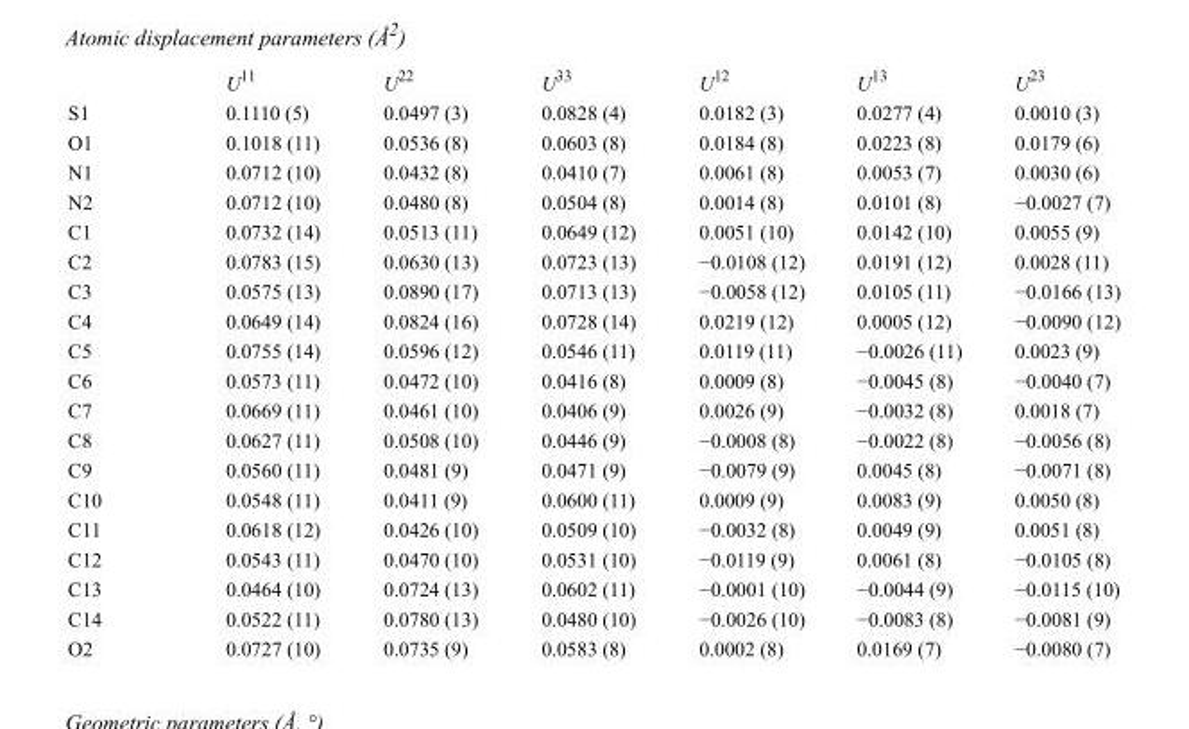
<table><thead><tr><td></td><td>U<sup>11</sup></td><td>U<sup>22</sup></td><td>U<sup>33</sup></td><td>U<sup>12</sup></td><td>U<sup>13</sup></td><td>U<sup>23</sup></td></tr></thead><tbody><tr><td>S1</td><td>0.1110 (5)</td><td>0.0497 (3)</td><td>0.0828 (4)</td><td>0.0182 (3)</td><td>0.0277 (4)</td><td>0.0010 (3)</td></tr><tr><td>O1</td><td>0.1018 (11)</td><td>0.0536 (8)</td><td>0.0603 (8)</td><td>0.0184 (8)</td><td>0.0223 (8)</td><td>0.0179 (6)</td></tr><tr><td>N1</td><td>0.0712 (10)</td><td>0.0432 (8)</td><td>0.0410 (7)</td><td>0.0061 (8)</td><td>0.0053 (7)</td><td>0.0030 (6)</td></tr><tr><td>N2</td><td>0.0712 (10)</td><td>0.0480 (8)</td><td>0.0504 (8)</td><td>0.0014 (8)</td><td>0.0101 (8)</td><td>−0.0027 (7)</td></tr><tr><td>C1</td><td>0.0732 (14)</td><td>0.0513 (11)</td><td>0.0649 (12)</td><td>0.0051 (10)</td><td>0.0142 (10)</td><td>0.0055 (9)</td></tr><tr><td>C2</td><td>0.0783 (15)</td><td>0.0630 (13)</td><td>0.0723 (13)</td><td>−0.0108 (12)</td><td>0.0191 (12)</td><td>0.0028 (11)</td></tr><tr><td>C3</td><td>0.0575 (13)</td><td>0.0890 (17)</td><td>0.0713 (13)</td><td>−0.0058 (12)</td><td>0.0105 (11)</td><td>−0.0166 (13)</td></tr><tr><td>C4</td><td>0.0649 (14)</td><td>0.0824 (16)</td><td>0.0728 (14)</td><td>0.0219 (12)</td><td>0.0005 (12)</td><td>−0.0090 (12)</td></tr><tr><td>C5</td><td>0.0755 (14)</td><td>0.0596 (12)</td><td>0.0546 (11)</td><td>0.0119 (11)</td><td>−0.0026 (11)</td><td>0.0023 (9)</td></tr><tr><td>C6</td><td>0.0573 (11)</td><td>0.0472 (10)</td><td>0.0416 (8)</td><td>0.0009 (8)</td><td>−0.0045 (8)</td><td>−0.0040 (7)</td></tr><tr><td>C7</td><td>0.0669 (11)</td><td>0.0461 (10)</td><td>0.0406 (9)</td><td>0.0026 (9)</td><td>−0.0032 (8)</td><td>0.0018 (7)</td></tr><tr><td>C8</td><td>0.0627 (11)</td><td>0.0508 (10)</td><td>0.0446 (9)</td><td>−0.0008 (8)</td><td>−0.0022 (8)</td><td>−0.0056 (8)</td></tr><tr><td>C9</td><td>0.0560 (11)</td><td>0.0481 (9)</td><td>0.0471 (9)</td><td>−0.0079 (9)</td><td>0.0045 (8)</td><td>−0.0071 (8)</td></tr><tr><td>C10</td><td>0.0548 (11)</td><td>0.0411 (9)</td><td>0.0600 (11)</td><td>0.0009 (9)</td><td>0.0083 (9)</td><td>0.0050 (8)</td></tr><tr><td>C11</td><td>0.0618 (12)</td><td>0.0426 (10)</td><td>0.0509 (10)</td><td>−0.0032 (8)</td><td>0.0049 (9)</td><td>0.0051 (8)</td></tr><tr><td>C12</td><td>0.0543 (11)</td><td>0.0470 (10)</td><td>0.0531 (10)</td><td>−0.0119 (9)</td><td>0.0061 (8)</td><td>−0.0105 (8)</td></tr><tr><td>C13</td><td>0.0464 (10)</td><td>0.0724 (13)</td><td>0.0602 (11)</td><td>−0.0001 (10)</td><td>−0.0044 (9)</td><td>−0.0115 (10)</td></tr><tr><td>C14</td><td>0.0522 (11)</td><td>0.0780 (13)</td><td>0.0480 (10)</td><td>−0.0026 (10)</td><td>−0.0083 (8)</td><td>−0.0081 (9)</td></tr><tr><td>O2</td><td>0.0727 (10)</td><td>0.0735 (9)</td><td>0.0583 (8)</td><td>0.0002 (8)</td><td>0.0169 (7)</td><td>−0.0080 (7)</td></tr></tbody></table>